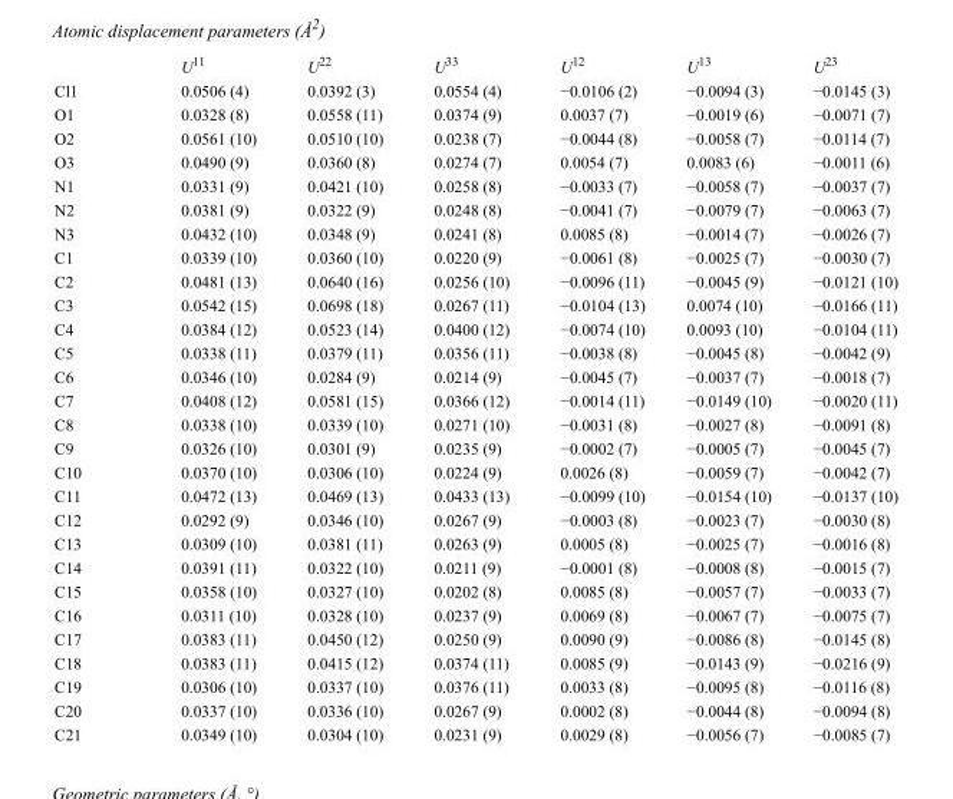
<table><thead><tr><td></td><td>U<sup>11</sup></td><td>U<sup>22</sup></td><td>U<sup>33</sup></td><td>U<sup>12</sup></td><td>U<sup>13</sup></td><td>U<sup>23</sup></td></tr></thead><tbody><tr><td>Cl1</td><td>0.0506 (4)</td><td>0.0392 (3)</td><td>0.0554 (4)</td><td>−0.0106 (2)</td><td>−0.0094 (3)</td><td>−0.0145 (3)</td></tr><tr><td>O1</td><td>0.0328 (8)</td><td>0.0558 (11)</td><td>0.0374 (9)</td><td>0.0037 (7)</td><td>−0.0019 (6)</td><td>−0.0071 (7)</td></tr><tr><td>O2</td><td>0.0561 (10)</td><td>0.0510 (10)</td><td>0.0238 (7)</td><td>−0.0044 (8)</td><td>−0.0058 (7)</td><td>−0.0114 (7)</td></tr><tr><td>O3</td><td>0.0490 (9)</td><td>0.0360 (8)</td><td>0.0274 (7)</td><td>0.0054 (7)</td><td>0.0083 (6)</td><td>−0.0011 (6)</td></tr><tr><td>N1</td><td>0.0331 (9)</td><td>0.0421 (10)</td><td>0.0258 (8)</td><td>−0.0033 (7)</td><td>−0.0058 (7)</td><td>−0.0037 (7)</td></tr><tr><td>N2</td><td>0.0381 (9)</td><td>0.0322 (9)</td><td>0.0248 (8)</td><td>−0.0041 (7)</td><td>−0.0079 (7)</td><td>−0.0063 (7)</td></tr><tr><td>N3</td><td>0.0432 (10)</td><td>0.0348 (9)</td><td>0.0241 (8)</td><td>0.0085 (8)</td><td>−0.0014 (7)</td><td>−0.0026 (7)</td></tr><tr><td>C1</td><td>0.0339 (10)</td><td>0.0360 (10)</td><td>0.0220 (9)</td><td>−0.0061 (8)</td><td>−0.0025 (7)</td><td>−0.0030 (7)</td></tr><tr><td>C2</td><td>0.0481 (13)</td><td>0.0640 (16)</td><td>0.0256 (10)</td><td>−0.0096 (11)</td><td>−0.0045 (9)</td><td>−0.0121 (10)</td></tr><tr><td>C3</td><td>0.0542 (15)</td><td>0.0698 (18)</td><td>0.0267 (11)</td><td>−0.0104 (13)</td><td>0.0074 (10)</td><td>−0.0166 (11)</td></tr><tr><td>C4</td><td>0.0384 (12)</td><td>0.0523 (14)</td><td>0.0400 (12)</td><td>−0.0074 (10)</td><td>0.0093 (10)</td><td>−0.0104 (11)</td></tr><tr><td>C5</td><td>0.0338 (11)</td><td>0.0379 (11)</td><td>0.0356 (11)</td><td>−0.0038 (8)</td><td>−0.0045 (8)</td><td>−0.0042 (9)</td></tr><tr><td>C6</td><td>0.0346 (10)</td><td>0.0284 (9)</td><td>0.0214 (9)</td><td>−0.0045 (7)</td><td>−0.0037 (7)</td><td>−0.0018 (7)</td></tr><tr><td>C7</td><td>0.0408 (12)</td><td>0.0581 (15)</td><td>0.0366 (12)</td><td>−0.0014 (11)</td><td>−0.0149 (10)</td><td>−0.0020 (11)</td></tr><tr><td>C8</td><td>0.0338 (10)</td><td>0.0339 (10)</td><td>0.0271 (10)</td><td>−0.0031 (8)</td><td>−0.0027 (8)</td><td>−0.0091 (8)</td></tr><tr><td>C9</td><td>0.0326 (10)</td><td>0.0301 (9)</td><td>0.0235 (9)</td><td>−0.0002 (7)</td><td>−0.0005 (7)</td><td>−0.0045 (7)</td></tr><tr><td>C10</td><td>0.0370 (10)</td><td>0.0306 (10)</td><td>0.0224 (9)</td><td>0.0026 (8)</td><td>−0.0059 (7)</td><td>−0.0042 (7)</td></tr><tr><td>C11</td><td>0.0472 (13)</td><td>0.0469 (13)</td><td>0.0433 (13)</td><td>−0.0099 (10)</td><td>−0.0154 (10)</td><td>−0.0137 (10)</td></tr><tr><td>C12</td><td>0.0292 (9)</td><td>0.0346 (10)</td><td>0.0267 (9)</td><td>−0.0003 (8)</td><td>−0.0023 (7)</td><td>−0.0030 (8)</td></tr><tr><td>C13</td><td>0.0309 (10)</td><td>0.0381 (11)</td><td>0.0263 (9)</td><td>0.0005 (8)</td><td>−0.0025 (7)</td><td>−0.0016 (8)</td></tr><tr><td>C14</td><td>0.0391 (11)</td><td>0.0322 (10)</td><td>0.0211 (9)</td><td>−0.0001 (8)</td><td>−0.0008 (8)</td><td>−0.0015 (7)</td></tr><tr><td>C15</td><td>0.0358 (10)</td><td>0.0327 (10)</td><td>0.0202 (8)</td><td>0.0085 (8)</td><td>−0.0057 (7)</td><td>−0.0033 (7)</td></tr><tr><td>C16</td><td>0.0311 (10)</td><td>0.0328 (10)</td><td>0.0237 (9)</td><td>0.0069 (8)</td><td>−0.0067 (7)</td><td>−0.0075 (7)</td></tr><tr><td>C17</td><td>0.0383 (11)</td><td>0.0450 (12)</td><td>0.0250 (9)</td><td>0.0090 (9)</td><td>−0.0086 (8)</td><td>−0.0145 (8)</td></tr><tr><td>C18</td><td>0.0383 (11)</td><td>0.0415 (12)</td><td>0.0374 (11)</td><td>0.0085 (9)</td><td>−0.0143 (9)</td><td>−0.0216 (9)</td></tr><tr><td>C19</td><td>0.0306 (10)</td><td>0.0337 (10)</td><td>0.0376 (11)</td><td>0.0033 (8)</td><td>−0.0095 (8)</td><td>−0.0116 (8)</td></tr><tr><td>C20</td><td>0.0337 (10)</td><td>0.0336 (10)</td><td>0.0267 (9)</td><td>0.0002 (8)</td><td>−0.0044 (8)</td><td>−0.0094 (8)</td></tr><tr><td>C21</td><td>0.0349 (10)</td><td>0.0304 (10)</td><td>0.0231 (9)</td><td>0.0029 (8)</td><td>−0.0056 (7)</td><td>−0.0085 (7)</td></tr></tbody></table>